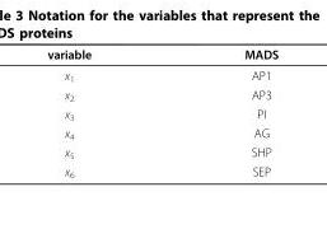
<table><thead><tr><td>variable</td><td>MADS</td></tr></thead><tbody><tr><td>x<sub>1</sub></td><td>AP1</td></tr><tr><td>x<sub>2</sub></td><td>AP3</td></tr><tr><td>x<sub>3</sub></td><td>PI</td></tr><tr><td>x<sub>4</sub></td><td>AG</td></tr><tr><td>x<sub>5</sub></td><td>SHP</td></tr><tr><td>x<sub>6</sub></td><td>SEP</td></tr></tbody></table>